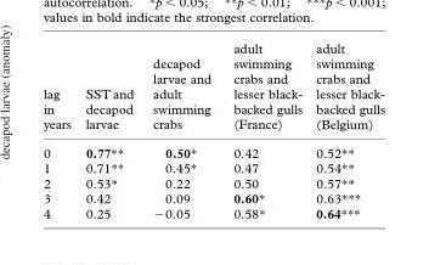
<table><thead><tr><td>lag in years</td><td>SST and decapod larvae</td><td>decapod larvae and adult swimming crabs</td><td>adult swimming crabs and lesser black- backed gulls (France)</td><td>adult swimming crabs and lesser black- backed gulls (Belgium)</td></tr></thead><tbody><tr><td>0</td><td>0.77**</td><td>0.50*</td><td>0.42</td><td>0.52**</td></tr><tr><td>1</td><td>0.71**</td><td>0.45*</td><td>0.47</td><td>0.54**</td></tr><tr><td>2</td><td>0.53*</td><td>0.22</td><td>0.50</td><td>0.57**</td></tr><tr><td>3</td><td>0.42</td><td>0.09</td><td>0.60*</td><td>0.63***</td></tr><tr><td>4</td><td>0.25</td><td>−0.05</td><td>0.58*</td><td>0.64***</td></tr></tbody></table>